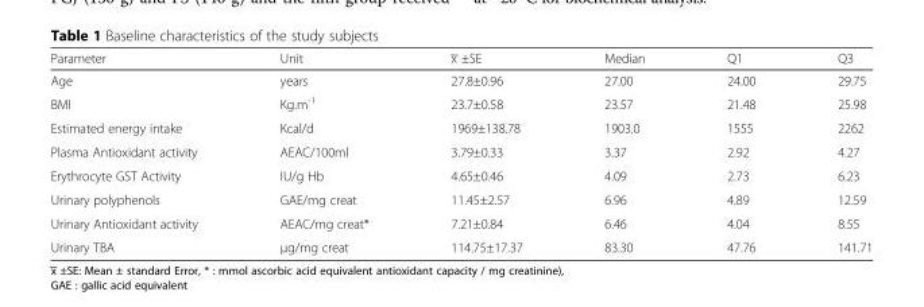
<table><thead><tr><td>Parameter</td><td>Unit</td><td>x̄ ±SE</td><td>Median</td><td>Q1</td><td>Q3</td></tr></thead><tbody><tr><td>Age</td><td>years</td><td>27.8±0.96</td><td>27.00</td><td>24.00</td><td>29.75</td></tr><tr><td>BMI</td><td>Kg.m<sup>-1</sup></td><td>23.7±0.58</td><td>23.57</td><td>21.48</td><td>25.98</td></tr><tr><td>Estimated energy intake</td><td>Kcal/d</td><td>1969±138.78</td><td>1903.0</td><td>1555</td><td>2262</td></tr><tr><td>Plasma Antioxidant activity</td><td>AEAC/100ml</td><td>3.79±0.33</td><td>3.37</td><td>2.92</td><td>4.27</td></tr><tr><td>Erythrocyte GST Activity</td><td>IU/g Hb</td><td>4.65±0.46</td><td>4.09</td><td>2.73</td><td>6.23</td></tr><tr><td>Urinary polyphenols</td><td>GAE/mg creat</td><td>11.45±2.57</td><td>6.96</td><td>4.89</td><td>12.59</td></tr><tr><td>Urinary Antioxidant activity</td><td>AEAC/mg creat*</td><td>7.21±0.84</td><td>6.46</td><td>4.04</td><td>8.55</td></tr><tr><td>Urinary TBA</td><td>μg/mg creat</td><td>114.75±17.37</td><td>83.30</td><td>47.76</td><td>141.71</td></tr></tbody></table>